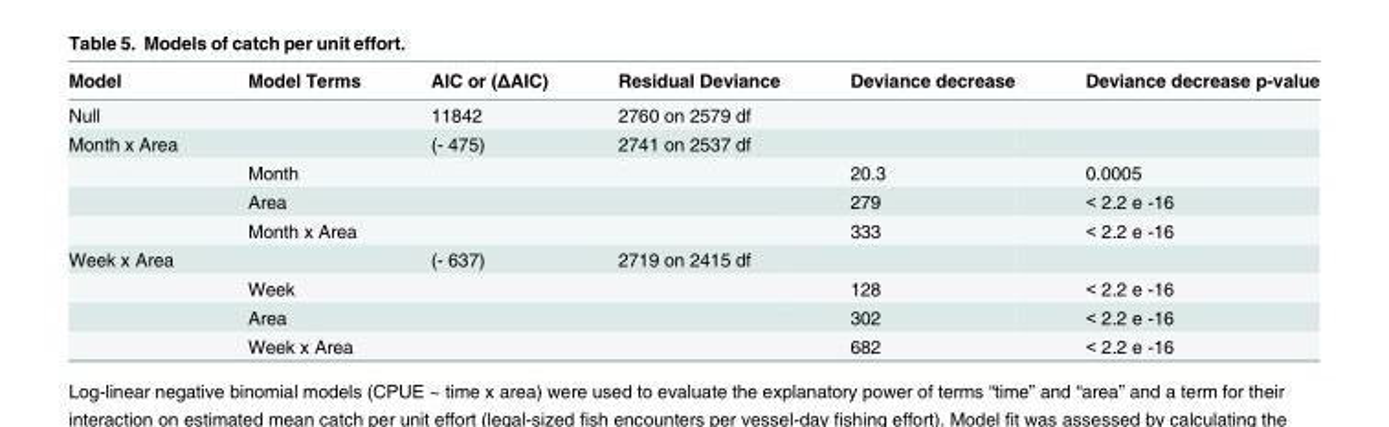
<table><thead><tr><td>Model</td><td>Model Terms</td><td>AIC or (ΔAIC)</td><td>Residual Deviance</td><td>Deviance decrease</td><td>Deviance decrease p-value</td></tr></thead><tbody><tr><td>Null</td><td></td><td>11842</td><td>2760 on 2579 df</td><td></td><td></td></tr><tr><td rowspan="4">Month x Area</td><td></td><td>(- 475)</td><td>2741 on 2537 df</td><td></td><td></td></tr><tr><td>Month</td><td></td><td></td><td>20.3</td><td>0.0005</td></tr><tr><td>Area</td><td></td><td></td><td>279</td><td>&lt; 2.2 e -16</td></tr><tr><td>Month x Area</td><td></td><td></td><td>333</td><td>&lt; 2.2 e -16</td></tr><tr><td rowspan="4">Week x Area</td><td></td><td>(- 637)</td><td>2719 on 2415 df</td><td></td><td></td></tr><tr><td>Week</td><td></td><td></td><td>128</td><td>&lt; 2.2 e -16</td></tr><tr><td>Area</td><td></td><td></td><td>302</td><td>&lt; 2.2 e -16</td></tr><tr><td>Week x Area</td><td></td><td></td><td>682</td><td>&lt; 2.2 e -16</td></tr></tbody></table>